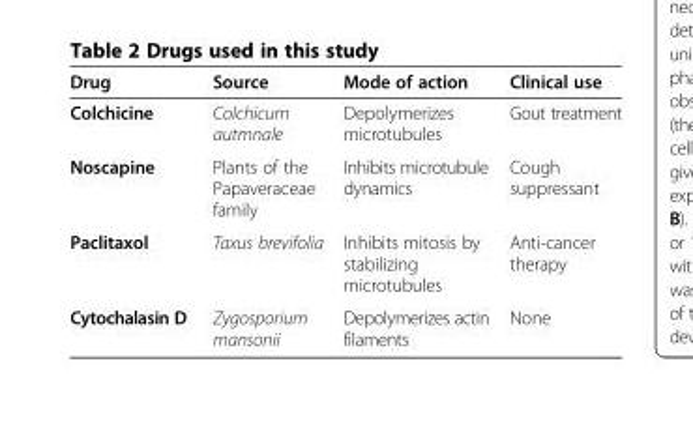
<table><thead><tr><td>Drug</td><td>Source</td><td>Mode of action</td><td>Clinical use</td></tr></thead><tbody><tr><td>Colchicine</td><td>Colchicum autmnale</td><td>Depolymerizes microtubules</td><td>Gout treatment</td></tr><tr><td>Noscapine</td><td>Plants of the Papaveraceae family</td><td>Inhibits microtubule dynamics</td><td>Cough suppressant</td></tr><tr><td>Paclitaxol</td><td>Taxus brevifolia</td><td>Inhibits mitosis by stabilizing microtubules</td><td>Anti-cancer therapy</td></tr><tr><td>Cytochalasin D</td><td>Zygosporium mansonii</td><td>Depolymerizes actin filaments</td><td>None</td></tr></tbody></table>